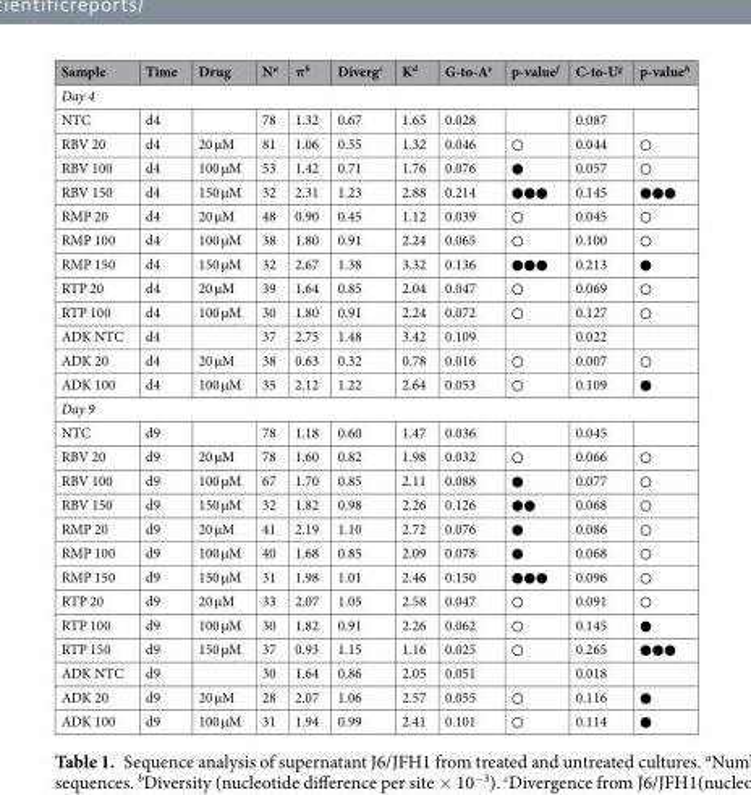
<table><thead><tr><td>Sample</td><td>Time</td><td>Drug</td><td>N<sup>a</sup></td><td>π<sup>b</sup></td><td>Diverg<sup>c</sup></td><td>K<sup>d</sup></td><td>G-to-A<sup>e</sup></td><td>p-value<sup>f</sup></td><td>C-to-U<sup>g</sup></td><td>p-value<sup>h</sup></td></tr></thead><tbody><tr><td colspan="11">Day 4</td></tr><tr><td>NTC</td><td>d4</td><td></td><td>78</td><td>1.32</td><td>0.67</td><td>1.65</td><td>0.028</td><td></td><td>0.087</td><td></td></tr><tr><td>RBV 20</td><td>d4</td><td>20 µM</td><td>81</td><td>1.06</td><td>0.55</td><td>1.32</td><td>0.046</td><td>○</td><td>0.044</td><td>○</td></tr><tr><td>RBV 100</td><td>d4</td><td>100 µM</td><td>53</td><td>1.42</td><td>0.71</td><td>1.76</td><td>0.076</td><td>●</td><td>0.057</td><td>○</td></tr><tr><td>RBV 150</td><td>d4</td><td>150 µM</td><td>32</td><td>2.31</td><td>1.23</td><td>2.88</td><td>0.214</td><td>●●●</td><td>0.145</td><td>●●●</td></tr><tr><td>RMP 20</td><td>d4</td><td>20 µM</td><td>48</td><td>0.90</td><td>0.45</td><td>1.12</td><td>0.039</td><td>○</td><td>0.045</td><td>○</td></tr><tr><td>RMP 100</td><td>d4</td><td>100 µM</td><td>38</td><td>1.80</td><td>0.91</td><td>2.24</td><td>0.065</td><td>○</td><td>0.100</td><td>○</td></tr><tr><td>RMP 150</td><td>d4</td><td>150 µM</td><td>32</td><td>2.67</td><td>1.38</td><td>3.32</td><td>0.136</td><td>●●●</td><td>0.213</td><td>●</td></tr><tr><td>RTP 20</td><td>d4</td><td>20 µM</td><td>39</td><td>1.64</td><td>0.85</td><td>2.04</td><td>0.047</td><td>○</td><td>0.069</td><td>○</td></tr><tr><td>RTP 100</td><td>d4</td><td>100 µM</td><td>30</td><td>1.80</td><td>0.91</td><td>2.24</td><td>0.072</td><td>○</td><td>0.127</td><td>○</td></tr><tr><td>ADK NTC</td><td>d4</td><td></td><td>37</td><td>2.75</td><td>1.48</td><td>3.42</td><td>0.109</td><td></td><td>0.022</td><td></td></tr><tr><td>ADK 20</td><td>d4</td><td>20 µM</td><td>38</td><td>0.63</td><td>0.32</td><td>0.78</td><td>0.016</td><td>○</td><td>0.007</td><td>○</td></tr><tr><td>ADK 100</td><td>d4</td><td>100 µM</td><td>35</td><td>2.12</td><td>1.22</td><td>2.64</td><td>0.053</td><td>○</td><td>0.109</td><td>●</td></tr><tr><td colspan="11">Day 9</td></tr><tr><td>NTC</td><td>d9</td><td></td><td>78</td><td>1.18</td><td>0.60</td><td>1.47</td><td>0.036</td><td></td><td>0.045</td><td></td></tr><tr><td>RBV 20</td><td>d9</td><td>20 µM</td><td>78</td><td>1.60</td><td>0.82</td><td>1.98</td><td>0.032</td><td>○</td><td>0.066</td><td>○</td></tr><tr><td>RBV 100</td><td>d9</td><td>100 µM</td><td>67</td><td>1.70</td><td>0.85</td><td>2.11</td><td>0.088</td><td>●</td><td>0.077</td><td>○</td></tr><tr><td>RBV 150</td><td>d9</td><td>150 µM</td><td>32</td><td>1.82</td><td>0.98</td><td>2.26</td><td>0.126</td><td>●●</td><td>0.068</td><td>○</td></tr><tr><td>RMP 20</td><td>d9</td><td>20 µM</td><td>41</td><td>2.19</td><td>1.10</td><td>2.72</td><td>0.076</td><td>●</td><td>0.086</td><td>○</td></tr><tr><td>RMP 100</td><td>d9</td><td>100 µM</td><td>40</td><td>1.68</td><td>0.85</td><td>2.09</td><td>0.078</td><td>●</td><td>0.068</td><td>○</td></tr><tr><td>RMP 150</td><td>d9</td><td>150 µM</td><td>31</td><td>1.98</td><td>1.01</td><td>2.46</td><td>0.150</td><td>●●●</td><td>0.096</td><td>○</td></tr><tr><td>RTP 20</td><td>d9</td><td>20 µM</td><td>33</td><td>2.07</td><td>1.05</td><td>2.58</td><td>0.047</td><td>○</td><td>0.091</td><td>○</td></tr><tr><td>RTP 100</td><td>d9</td><td>100 µM</td><td>30</td><td>1.82</td><td>0.91</td><td>2.26</td><td>0.062</td><td>○</td><td>0.145</td><td>●</td></tr><tr><td>RTP 150</td><td>d9</td><td>150 µM</td><td>37</td><td>0.93</td><td>1.15</td><td>1.16</td><td>0.025</td><td>○</td><td>0.265</td><td>●●●</td></tr><tr><td>ADK NTC</td><td>d9</td><td></td><td>30</td><td>1.64</td><td>0.86</td><td>2.05</td><td>0.051</td><td></td><td>0.018</td><td></td></tr><tr><td>ADK 20</td><td>d9</td><td>20 µM</td><td>28</td><td>2.07</td><td>1.06</td><td>2.57</td><td>0.055</td><td>○</td><td>0.116</td><td>●</td></tr><tr><td>ADK 100</td><td>d9</td><td>100 µM</td><td>31</td><td>1.94</td><td>0.99</td><td>2.41</td><td>0.101</td><td>○</td><td>0.114</td><td>●</td></tr></tbody></table>